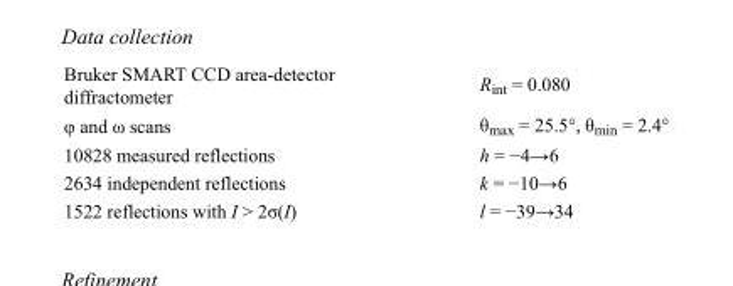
<table><tbody><tr><td>Bruker SMART CCD area-detector diffractometer</td><td>R<sub>int</sub> = 0.080</td></tr><tr><td>φ and ω scans</td><td>θ<sub>max</sub> = 25.5°, θ<sub>min</sub> = 2.4°</td></tr><tr><td>10828 measured reflections</td><td>h = −4→6</td></tr><tr><td>2634 independent reflections</td><td>k = −10→6</td></tr><tr><td>1522 reflections with I &gt; 2σ(I)</td><td>l = −39→34</td></tr></tbody></table>